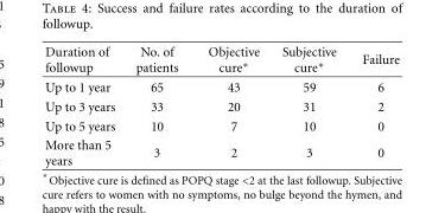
<table><thead><tr><td>Duration of followup</td><td>No. of patients</td><td>Objective cure∗</td><td>Subjective cure∗</td><td>Failure</td></tr></thead><tbody><tr><td>Up to 1 year</td><td>65</td><td>43</td><td>59</td><td>6</td></tr><tr><td>Up to 3 years</td><td>33</td><td>20</td><td>31</td><td>2</td></tr><tr><td>Up to 5 years</td><td>10</td><td>7</td><td>10</td><td>0</td></tr><tr><td>More than 5 years</td><td>3</td><td>2</td><td>3</td><td>0</td></tr></tbody></table>